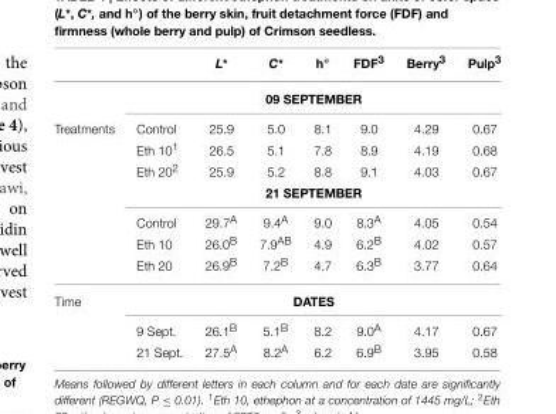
<table><thead><tr><td></td><td></td><td>L*</td><td>C*</td><td>h◦</td><td>FDF<sup>3</sup></td><td>Berry<sup>3</sup></td><td>Pulp<sup>3</sup></td></tr></thead><tbody><tr><td></td><td colspan="7">09 SEPTEMBER</td></tr><tr><td rowspan="7">Treatments</td><td>Control</td><td>25.9</td><td>5.0</td><td>8.1</td><td>9.0</td><td>4.29</td><td>0.67</td></tr><tr><td>Eth 10<sup>1</sup></td><td>26.5</td><td>5.1</td><td>7.8</td><td>8.9</td><td>4.19</td><td>0.68</td></tr><tr><td>Eth 20<sup>2</sup></td><td>25.9</td><td>5.2</td><td>8.8</td><td>9.1</td><td>4.03</td><td>0.67</td></tr><tr><td colspan="7">21 SEPTEMBER</td></tr><tr><td>Control</td><td>29.7<sup>A</sup></td><td>9.4<sup>A</sup></td><td>9.0</td><td>8.3<sup>A</sup></td><td>4.05</td><td>0.54</td></tr><tr><td>Eth 10</td><td>26.0<sup>B</sup></td><td>7.9<sup>AB</sup></td><td>4.9</td><td>6.2<sup>B</sup></td><td>4.02</td><td>0.57</td></tr><tr><td>Eth 20</td><td>26.9<sup>B</sup></td><td>7.2<sup>B</sup></td><td>4.7</td><td>6.3<sup>B</sup></td><td>3.77</td><td>0.64</td></tr><tr><td rowspan="3">Time</td><td colspan="7">DATES</td></tr><tr><td>9 Sept.</td><td>26.1<sup>B</sup></td><td>5.1<sup>B</sup></td><td>8.2</td><td>9.0<sup>A</sup></td><td>4.17</td><td>0.67</td></tr><tr><td>21 Sept.</td><td>27.5<sup>A</sup></td><td>8.2<sup>A</sup></td><td>6.2</td><td>6.9<sup>B</sup></td><td>3.95</td><td>0.58</td></tr></tbody></table>